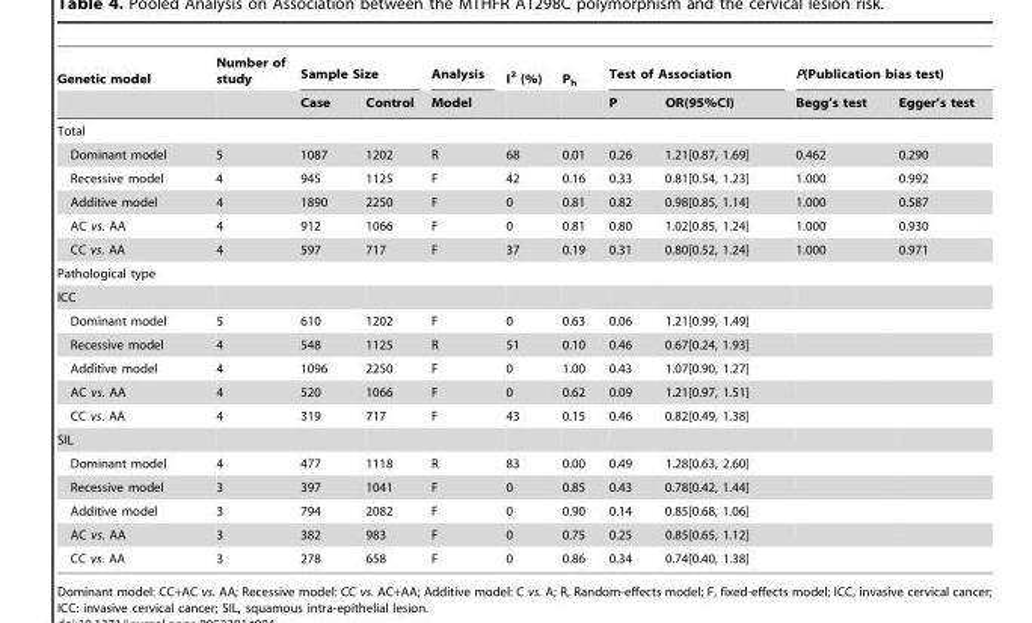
<table><thead><tr><td rowspan="2">Genetic model</td><td rowspan="2">Number of study</td><td colspan="2">Sample Size</td><td rowspan="2">Analysis Model</td><td rowspan="2">I<sup>2</sup> (%)</td><td rowspan="2">P<sub>h</sub></td><td colspan="2">Test of Association</td><td colspan="2">P(Publication bias test)</td></tr><tr><td>Case</td><td>Control</td><td>P</td><td>OR(95%CI)</td><td>Begg’s test</td><td>Egger’s test</td></tr></thead><tbody><tr><td colspan="11">Total</td></tr><tr><td>Dominant model</td><td>5</td><td>1087</td><td>1202</td><td>R</td><td>68</td><td>0.01</td><td>0.26</td><td>1.21[0.87, 1.69]</td><td>0.462</td><td>0.290</td></tr><tr><td>Recessive model</td><td>4</td><td>945</td><td>1125</td><td>F</td><td>42</td><td>0.16</td><td>0.33</td><td>0.81[0.54, 1.23]</td><td>1.000</td><td>0.992</td></tr><tr><td>Additive model</td><td>4</td><td>1890</td><td>2250</td><td>F</td><td>0</td><td>0.81</td><td>0.82</td><td>0.98[0.85, 1.14]</td><td>1.000</td><td>0.587</td></tr><tr><td>AC vs. AA</td><td>4</td><td>912</td><td>1066</td><td>F</td><td>0</td><td>0.81</td><td>0.80</td><td>1.02[0.85, 1.24]</td><td>1.000</td><td>0.930</td></tr><tr><td>CC vs. AA</td><td>4</td><td>597</td><td>717</td><td>F</td><td>37</td><td>0.19</td><td>0.31</td><td>0.80[0.52, 1.24]</td><td>1.000</td><td>0.971</td></tr><tr><td colspan="11">Pathological type</td></tr><tr><td colspan="11">ICC</td></tr><tr><td>Dominant model</td><td>5</td><td>610</td><td>1202</td><td>F</td><td>0</td><td>0.63</td><td>0.06</td><td>1.21[0.99, 1.49]</td><td></td><td></td></tr><tr><td>Recessive model</td><td>4</td><td>548</td><td>1125</td><td>R</td><td>51</td><td>0.10</td><td>0.46</td><td>0.67[0.24, 1.93]</td><td></td><td></td></tr><tr><td>Additive model</td><td>4</td><td>1096</td><td>2250</td><td>F</td><td>0</td><td>1.00</td><td>0.43</td><td>1.07[0.90, 1.27]</td><td></td><td></td></tr><tr><td>AC vs. AA</td><td>4</td><td>520</td><td>1066</td><td>F</td><td>0</td><td>0.62</td><td>0.09</td><td>1.21[0.97, 1.51]</td><td></td><td></td></tr><tr><td>CC vs. AA</td><td>4</td><td>319</td><td>717</td><td>F</td><td>43</td><td>0.15</td><td>0.46</td><td>0.82[0.49, 1.38]</td><td></td><td></td></tr><tr><td colspan="11">SIL</td></tr><tr><td>Dominant model</td><td>4</td><td>477</td><td>1118</td><td>R</td><td>83</td><td>0.00</td><td>0.49</td><td>1.28[0.63, 2.60]</td><td></td><td></td></tr><tr><td>Recessive model</td><td>3</td><td>397</td><td>1041</td><td>F</td><td>0</td><td>0.85</td><td>0.43</td><td>0.78[0.42, 1.44]</td><td></td><td></td></tr><tr><td>Additive model</td><td>3</td><td>794</td><td>2082</td><td>F</td><td>0</td><td>0.90</td><td>0.14</td><td>0.85[0.68, 1.06]</td><td></td><td></td></tr><tr><td>AC vs. AA</td><td>3</td><td>382</td><td>983</td><td>F</td><td>0</td><td>0.75</td><td>0.25</td><td>0.85[0.65, 1.12]</td><td></td><td></td></tr><tr><td>CC vs. AA</td><td>3</td><td>278</td><td>658</td><td>F</td><td>0</td><td>0.86</td><td>0.34</td><td>0.74[0.40, 1.38]</td><td></td><td></td></tr></tbody></table>